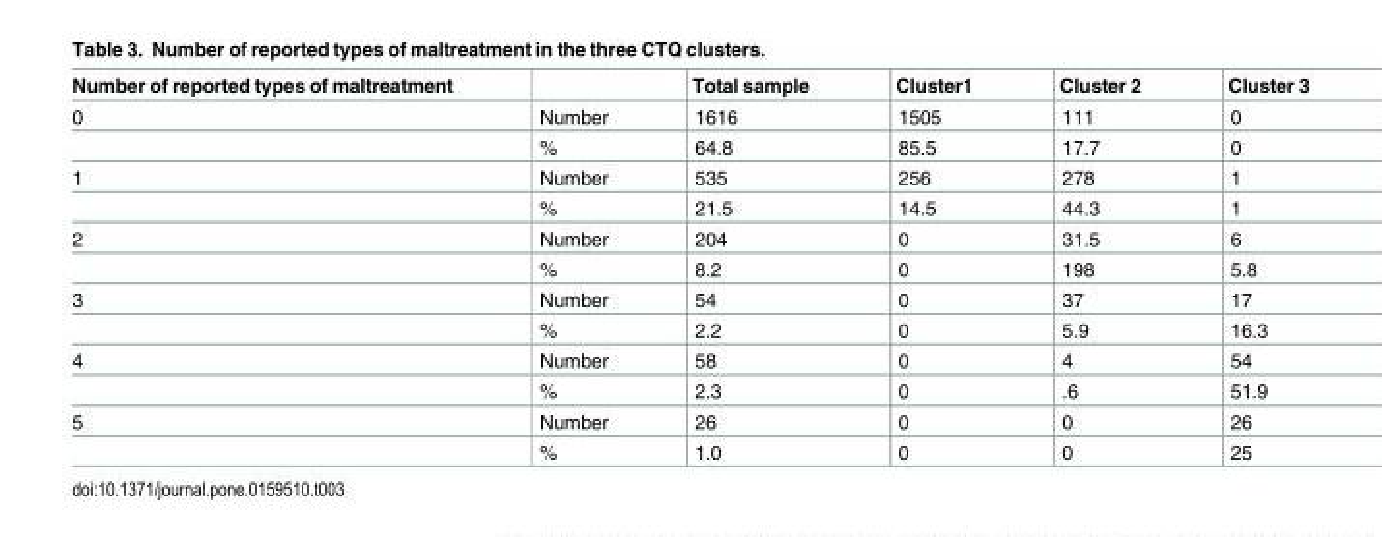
<table><thead><tr><td>Number of reported types of maltreatment</td><td></td><td>Total sample</td><td>Cluster1</td><td>Cluster 2</td><td>Cluster 3</td></tr></thead><tbody><tr><td rowspan="2">0</td><td>Number</td><td>1616</td><td>1505</td><td>111</td><td>0</td></tr><tr><td>%</td><td>64.8</td><td>85.5</td><td>17.7</td><td>0</td></tr><tr><td rowspan="2">1</td><td>Number</td><td>535</td><td>256</td><td>278</td><td>1</td></tr><tr><td>%</td><td>21.5</td><td>14.5</td><td>44.3</td><td>1</td></tr><tr><td rowspan="2">2</td><td>Number</td><td>204</td><td>0</td><td>31.5</td><td>6</td></tr><tr><td>%</td><td>8.2</td><td>0</td><td>198</td><td>5.8</td></tr><tr><td rowspan="2">3</td><td>Number</td><td>54</td><td>0</td><td>37</td><td>17</td></tr><tr><td>%</td><td>2.2</td><td>0</td><td>5.9</td><td>16.3</td></tr><tr><td rowspan="2">4</td><td>Number</td><td>58</td><td>0</td><td>4</td><td>54</td></tr><tr><td>%</td><td>2.3</td><td>0</td><td>.6</td><td>51.9</td></tr><tr><td rowspan="2">5</td><td>Number</td><td>26</td><td>0</td><td>0</td><td>26</td></tr><tr><td>%</td><td>1.0</td><td>0</td><td>0</td><td>25</td></tr></tbody></table>